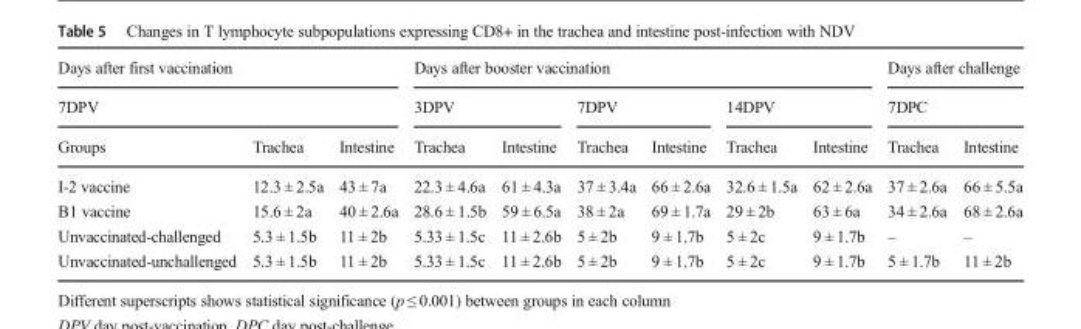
<table><thead><tr><td rowspan="2" colspan="3">Days after first vaccination 7DPV</td><td colspan="6">Days after booster vaccination</td><td rowspan="2" colspan="2">Days after challenge 7DPC</td></tr><tr><td colspan="2">3DPV</td><td colspan="2">7DPV</td><td colspan="2">14DPV</td></tr><tr><td>Groups</td><td>Trachea</td><td>Intestine</td><td>Trachea</td><td>Intestine</td><td>Trachea</td><td>Intestine</td><td>Trachea</td><td>Intestine</td><td>Trachea</td><td>Intestine</td></tr></thead><tbody><tr><td>I-2 vaccine</td><td>12.3 ± 2.5a</td><td>43 ± 7a</td><td>22.3 ± 4.6a</td><td>61 ± 4.3a</td><td>37 ± 3.4a</td><td>66 ± 2.6a</td><td>32.6 ± 1.5a</td><td>62 ± 2.6a</td><td>37 ± 2.6a</td><td>66 ± 5.5a</td></tr><tr><td>B1 vaccine</td><td>15.6 ± 2a</td><td>40 ± 2.6a</td><td>28.6 ± 1.5b</td><td>59 ± 6.5a</td><td>38 ± 2a</td><td>69 ± 1.7a</td><td>29 ± 2b</td><td>63 ± 6a</td><td>34 ± 2.6a</td><td>68 ± 2.6a</td></tr><tr><td>Unvaccinated-challenged</td><td>5.3 ± 1.5b</td><td>11 ± 2b</td><td>5.33 ± 1.5c</td><td>11 ± 2.6b</td><td>5 ± 2b</td><td>9 ± 1.7b</td><td>5 ± 2c</td><td>9 ± 1.7b</td><td>–</td><td>–</td></tr><tr><td>Unvaccinated-unchallenged</td><td>5.3 ± 1.5b</td><td>11 ± 2b</td><td>5.33 ± 1.5c</td><td>11 ± 2.6b</td><td>5 ± 2b</td><td>9 ± 1.7b</td><td>5 ± 2c</td><td>9 ± 1.7b</td><td>5 ± 1.7b</td><td>11 ± 2b</td></tr></tbody></table>